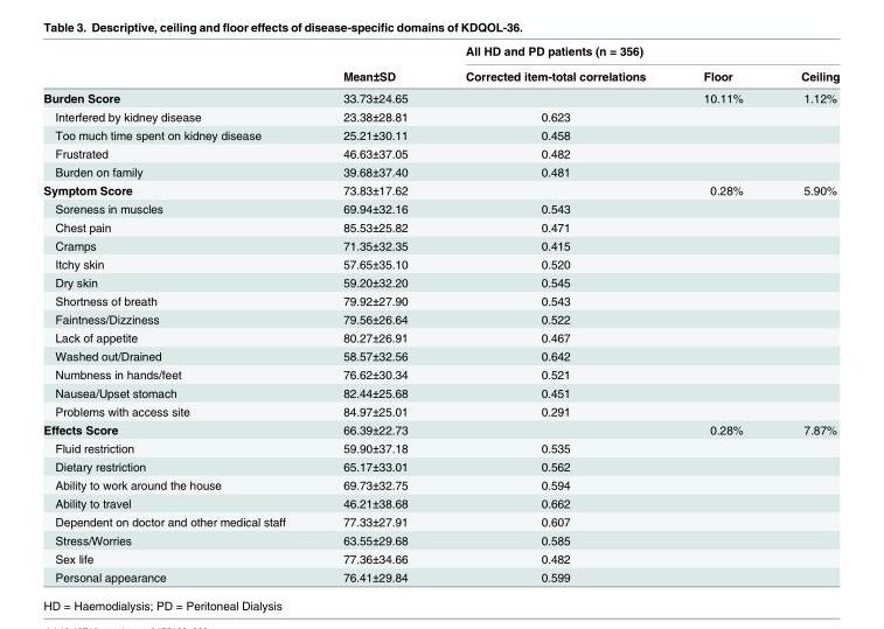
<table><thead><tr><td rowspan="2"></td><td rowspan="2">Mean±SD</td><td colspan="3">All HD and PD patients (n = 356)</td></tr><tr><td>Corrected item-total correlations</td><td>Floor</td><td>Ceiling</td></tr></thead><tbody><tr><td>Burden Score</td><td>33.73±24.65</td><td></td><td>10.11%</td><td>1.12%</td></tr><tr><td>Interfered by kidney disease</td><td>23.38±28.81</td><td>0.623</td><td></td><td></td></tr><tr><td>Too much time spent on kidney disease</td><td>25.21±30.11</td><td>0.458</td><td></td><td></td></tr><tr><td>Frustrated</td><td>46.63±37.05</td><td>0.482</td><td></td><td></td></tr><tr><td>Burden on family</td><td>39.68±37.40</td><td>0.481</td><td></td><td></td></tr><tr><td>Symptom Score</td><td>73.83±17.62</td><td></td><td>0.28%</td><td>5.90%</td></tr><tr><td>Soreness in muscles</td><td>69.94±32.16</td><td>0.543</td><td></td><td></td></tr><tr><td>Chest pain</td><td>85.53±25.82</td><td>0.471</td><td></td><td></td></tr><tr><td>Cramps</td><td>71.35±32.35</td><td>0.415</td><td></td><td></td></tr><tr><td>Itchy skin</td><td>57.65±35.10</td><td>0.520</td><td></td><td></td></tr><tr><td>Dry skin</td><td>59.20±32.20</td><td>0.545</td><td></td><td></td></tr><tr><td>Shortness of breath</td><td>79.92±27.90</td><td>0.543</td><td></td><td></td></tr><tr><td>Faintness/Dizziness</td><td>79.56±26.64</td><td>0.522</td><td></td><td></td></tr><tr><td>Lack of appetite</td><td>80.27±26.91</td><td>0.467</td><td></td><td></td></tr><tr><td>Washed out/Drained</td><td>58.57±32.56</td><td>0.642</td><td></td><td></td></tr><tr><td>Numbness in hands/feet</td><td>76.62±30.34</td><td>0.521</td><td></td><td></td></tr><tr><td>Nausea/Upset stomach</td><td>82.44±25.68</td><td>0.451</td><td></td><td></td></tr><tr><td>Problems with access site</td><td>84.97±25.01</td><td>0.291</td><td></td><td></td></tr><tr><td>Effects Score</td><td>66.39±22.73</td><td></td><td>0.28%</td><td>7.87%</td></tr><tr><td>Fluid restriction</td><td>59.90±37.18</td><td>0.535</td><td></td><td></td></tr><tr><td>Dietary restriction</td><td>65.17±33.01</td><td>0.562</td><td></td><td></td></tr><tr><td>Ability to work around the house</td><td>69.73±32.75</td><td>0.594</td><td></td><td></td></tr><tr><td>Ability to travel</td><td>46.21±38.68</td><td>0.662</td><td></td><td></td></tr><tr><td>Dependent on doctor and other medical staff</td><td>77.33±27.91</td><td>0.607</td><td></td><td></td></tr><tr><td>Stress/Worries</td><td>63.55±29.68</td><td>0.585</td><td></td><td></td></tr><tr><td>Sex life</td><td>77.36±34.66</td><td>0.482</td><td></td><td></td></tr><tr><td>Personal appearance</td><td>76.41±29.84</td><td>0.599</td><td></td><td></td></tr></tbody></table>